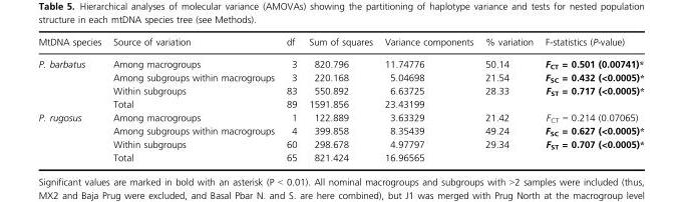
<table><thead><tr><td>MtDNA species</td><td>Source of variation</td><td>df</td><td>Sum of squares</td><td>Variance components</td><td>% variation</td><td>F-statistics (P-value)</td></tr></thead><tbody><tr><td rowspan="4">P. barbatus</td><td>Among macrogroups</td><td>3</td><td>820.796</td><td>11.74776</td><td>50.14</td><td>F<sub>CT</sub> = 0.501 (0.00741)*</td></tr><tr><td>Among subgroups within macrogroups</td><td>3</td><td>220.168</td><td>5.04698</td><td>21.54</td><td>F<sub>SC</sub> = 0.432 (&lt;0.0005)*</td></tr><tr><td>Within subgroups</td><td>83</td><td>550.892</td><td>6.63725</td><td>28.33</td><td>F<sub>ST</sub> = 0.717 (&lt;0.0005)*</td></tr><tr><td>Total</td><td>89</td><td>1591.856</td><td>23.43199</td><td></td><td></td></tr><tr><td rowspan="4">P. rugosus</td><td>Among macrogroups</td><td>1</td><td>122.889</td><td>3.63329</td><td>21.42</td><td>F<sub>CT</sub> = 0.214 (0.07065)</td></tr><tr><td>Among subgroups within macrogroups</td><td>4</td><td>399.858</td><td>8.35439</td><td>49.24</td><td>F<sub>SC</sub> = 0.627 (&lt;0.0005)*</td></tr><tr><td>Within subgroups</td><td>60</td><td>298.678</td><td>4.97797</td><td>29.34</td><td>F<sub>ST</sub> = 0.707 (&lt;0.0005)*</td></tr><tr><td>Total</td><td>65</td><td>821.424</td><td>16.96565</td><td></td><td></td></tr></tbody></table>